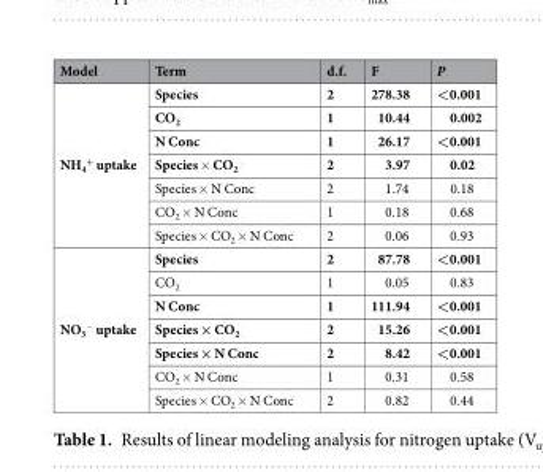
<table><thead><tr><td>Model</td><td>Term</td><td>d.f.</td><td>F</td><td>P</td></tr></thead><tbody><tr><td rowspan="7">NH<sub>4</sub> <sup>+</sup> uptake</td><td>Species</td><td>2</td><td>278.38</td><td>&lt;0.001</td></tr><tr><td>CO<sub>2</sub></td><td>1</td><td>10.44</td><td>0.002</td></tr><tr><td>N Conc</td><td>1</td><td>26.17</td><td>&lt;0.001</td></tr><tr><td>Species × CO<sub>2</sub></td><td>2</td><td>3.97</td><td>0.02</td></tr><tr><td>Species × N Conc</td><td>2</td><td>1.74</td><td>0.18</td></tr><tr><td>CO<sub>2</sub> × N Conc</td><td>1</td><td>0.18</td><td>0.68</td></tr><tr><td>Species × CO<sub>2</sub> × N Conc</td><td>2</td><td>0.06</td><td>0.93</td></tr><tr><td rowspan="7">NO<sub>3</sub> <sup>−</sup> uptake</td><td>Species</td><td>2</td><td>87.78</td><td>&lt;0.001</td></tr><tr><td>CO<sub>2</sub></td><td>1</td><td>0.05</td><td>0.83</td></tr><tr><td>N Conc</td><td>1</td><td>111.94</td><td>&lt;0.001</td></tr><tr><td>Species × CO<sub>2</sub></td><td>2</td><td>15.26</td><td>&lt;0.001</td></tr><tr><td>Species × N Conc</td><td>2</td><td>8.42</td><td>&lt;0.001</td></tr><tr><td>CO<sub>2</sub> × N Conc</td><td>1</td><td>0.31</td><td>0.58</td></tr><tr><td>Species × CO<sub>2</sub> × N Conc</td><td>2</td><td>0.82</td><td>0.44</td></tr></tbody></table>